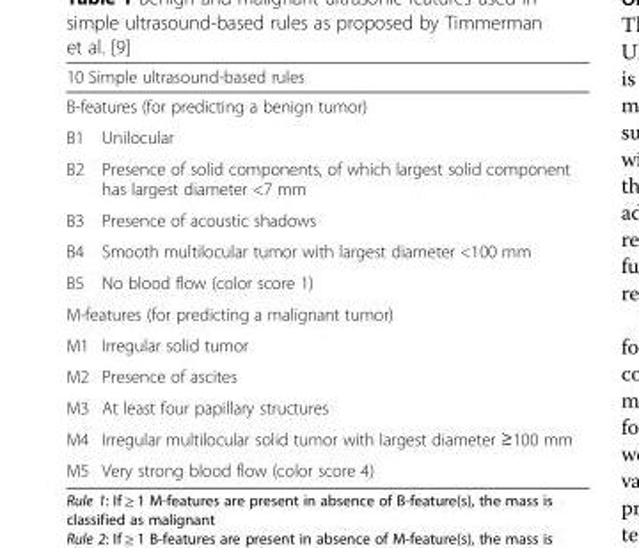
<table><thead><tr><td rowspan="2" colspan="2">10 Simple ultrasound-based rules B-features (for predicting a benign tumor)</td></tr><tr></tr><tr><td>B1</td><td>Unilocular</td></tr></thead><tbody><tr><td>B2</td><td>Presence of solid components, of which largest solid component has largest diameter &lt;7 mm</td></tr><tr><td>B3</td><td>Presence of acoustic shadows</td></tr><tr><td>B4</td><td>Smooth multilocular tumor with largest diameter &lt;100 mm</td></tr><tr><td>B5</td><td>No blood flow (color score 1)</td></tr><tr><td colspan="2">M-features (for predicting a malignant tumor)</td></tr><tr><td>M1</td><td>Irregular solid tumor</td></tr><tr><td>M2</td><td>Presence of ascites</td></tr><tr><td>M3</td><td>At least four papillary structures</td></tr><tr><td>M4</td><td>Irregular multilocular solid tumor with largest diameter ≥100 mm</td></tr><tr><td>M5</td><td>Very strong blood flow (color score 4)</td></tr></tbody></table>